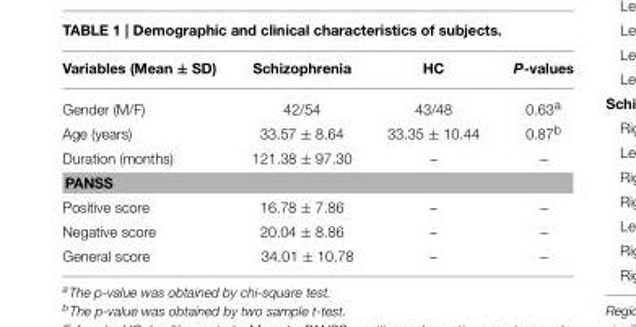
<table><thead><tr><td>Variables (Mean ± SD)</td><td>Schizophrenia</td><td>HC</td><td>P-values</td></tr></thead><tbody><tr><td>Gender (M/F)</td><td>42/54</td><td>43/48</td><td>0.63<sup>a</sup></td></tr><tr><td>Age (years)</td><td>33.57 ± 8.64</td><td>33.35 ± 10.44</td><td>0.87<sup>b</sup></td></tr><tr><td>Duration (months)</td><td>121.38 ± 97.30</td><td>–</td><td>–</td></tr><tr><td colspan="4">PANSS</td></tr><tr><td>Positive score</td><td>16.78 ± 7.86</td><td>–</td><td>–</td></tr><tr><td>Negative score</td><td>20.04 ± 8.86</td><td>–</td><td>–</td></tr><tr><td>General score</td><td>34.01 ± 10.78</td><td>–</td><td>–</td></tr></tbody></table>